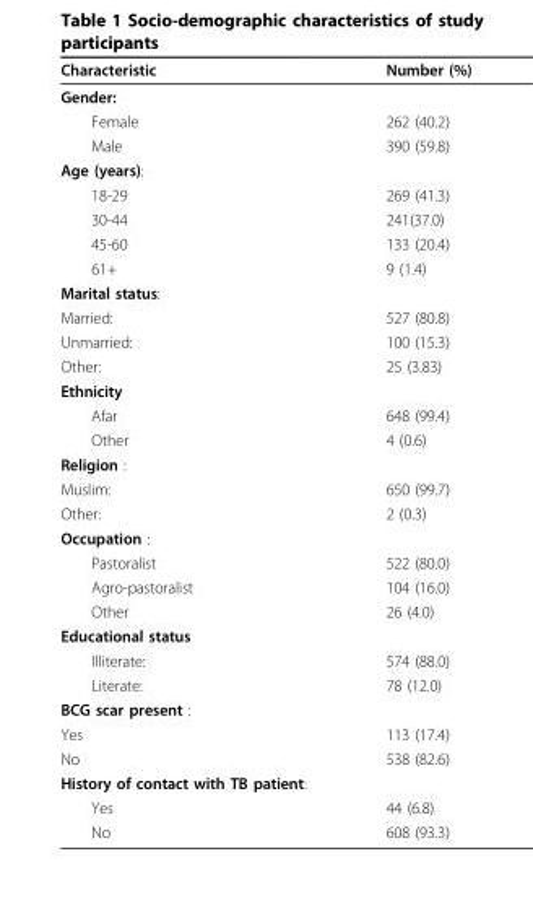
<table><thead><tr><td>Characteristic</td><td>Number (%)</td></tr></thead><tbody><tr><td colspan="2">Gender:</td></tr><tr><td>Female</td><td>262 (40.2)</td></tr><tr><td>Male</td><td>390 (59.8)</td></tr><tr><td colspan="2">Age (years):</td></tr><tr><td>18-29</td><td>269 (41.3)</td></tr><tr><td>30-44</td><td>241(37.0)</td></tr><tr><td>45-60</td><td>133 (20.4)</td></tr><tr><td>61+</td><td>9 (1.4)</td></tr><tr><td colspan="2">Marital status:</td></tr><tr><td>Married:</td><td>527 (80.8)</td></tr><tr><td>Unmarried:</td><td>100 (15.3)</td></tr><tr><td>Other:</td><td>25 (3.83)</td></tr><tr><td colspan="2">Ethnicity</td></tr><tr><td>Afar</td><td>648 (99.4)</td></tr><tr><td>Other</td><td>4 (0.6)</td></tr><tr><td colspan="2">Religion :</td></tr><tr><td>Muslim:</td><td>650 (99.7)</td></tr><tr><td>Other:</td><td>2 (0.3)</td></tr><tr><td colspan="2">Occupation :</td></tr><tr><td>Pastoralist</td><td>522 (80.0)</td></tr><tr><td>Agro-pastoralist</td><td>104 (16.0)</td></tr><tr><td>Other</td><td>26 (4.0)</td></tr><tr><td colspan="2">Educational status</td></tr><tr><td>Illiterate:</td><td>574 (88.0)</td></tr><tr><td>Literate:</td><td>78 (12.0)</td></tr><tr><td colspan="2">BCG scar present :</td></tr><tr><td>Yes</td><td>113 (17.4)</td></tr><tr><td>No</td><td>538 (82.6)</td></tr><tr><td colspan="2">History of contact with TB patient:</td></tr><tr><td>Yes</td><td>44 (6.8)</td></tr><tr><td>No</td><td>608 (93.3)</td></tr></tbody></table>